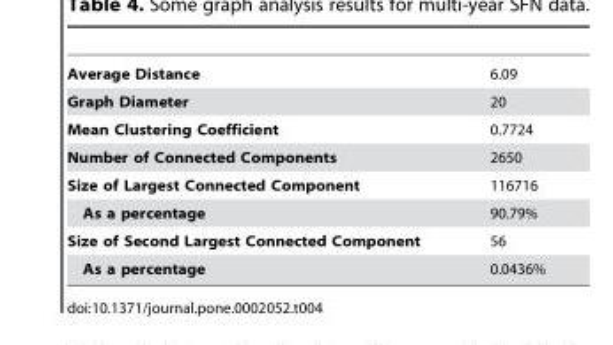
<table><tbody><tr><td>Average Distance</td><td>6.09</td></tr><tr><td>Graph Diameter</td><td>20</td></tr><tr><td>Mean Clustering Coefficient</td><td>0.7724</td></tr><tr><td>Number of Connected Components</td><td>2650</td></tr><tr><td>Size of Largest Connected Component</td><td>116716</td></tr><tr><td>As a percentage</td><td>90.79%</td></tr><tr><td>Size of Second Largest Connected Component</td><td>56</td></tr><tr><td>As a percentage</td><td>0.0436%</td></tr></tbody></table>